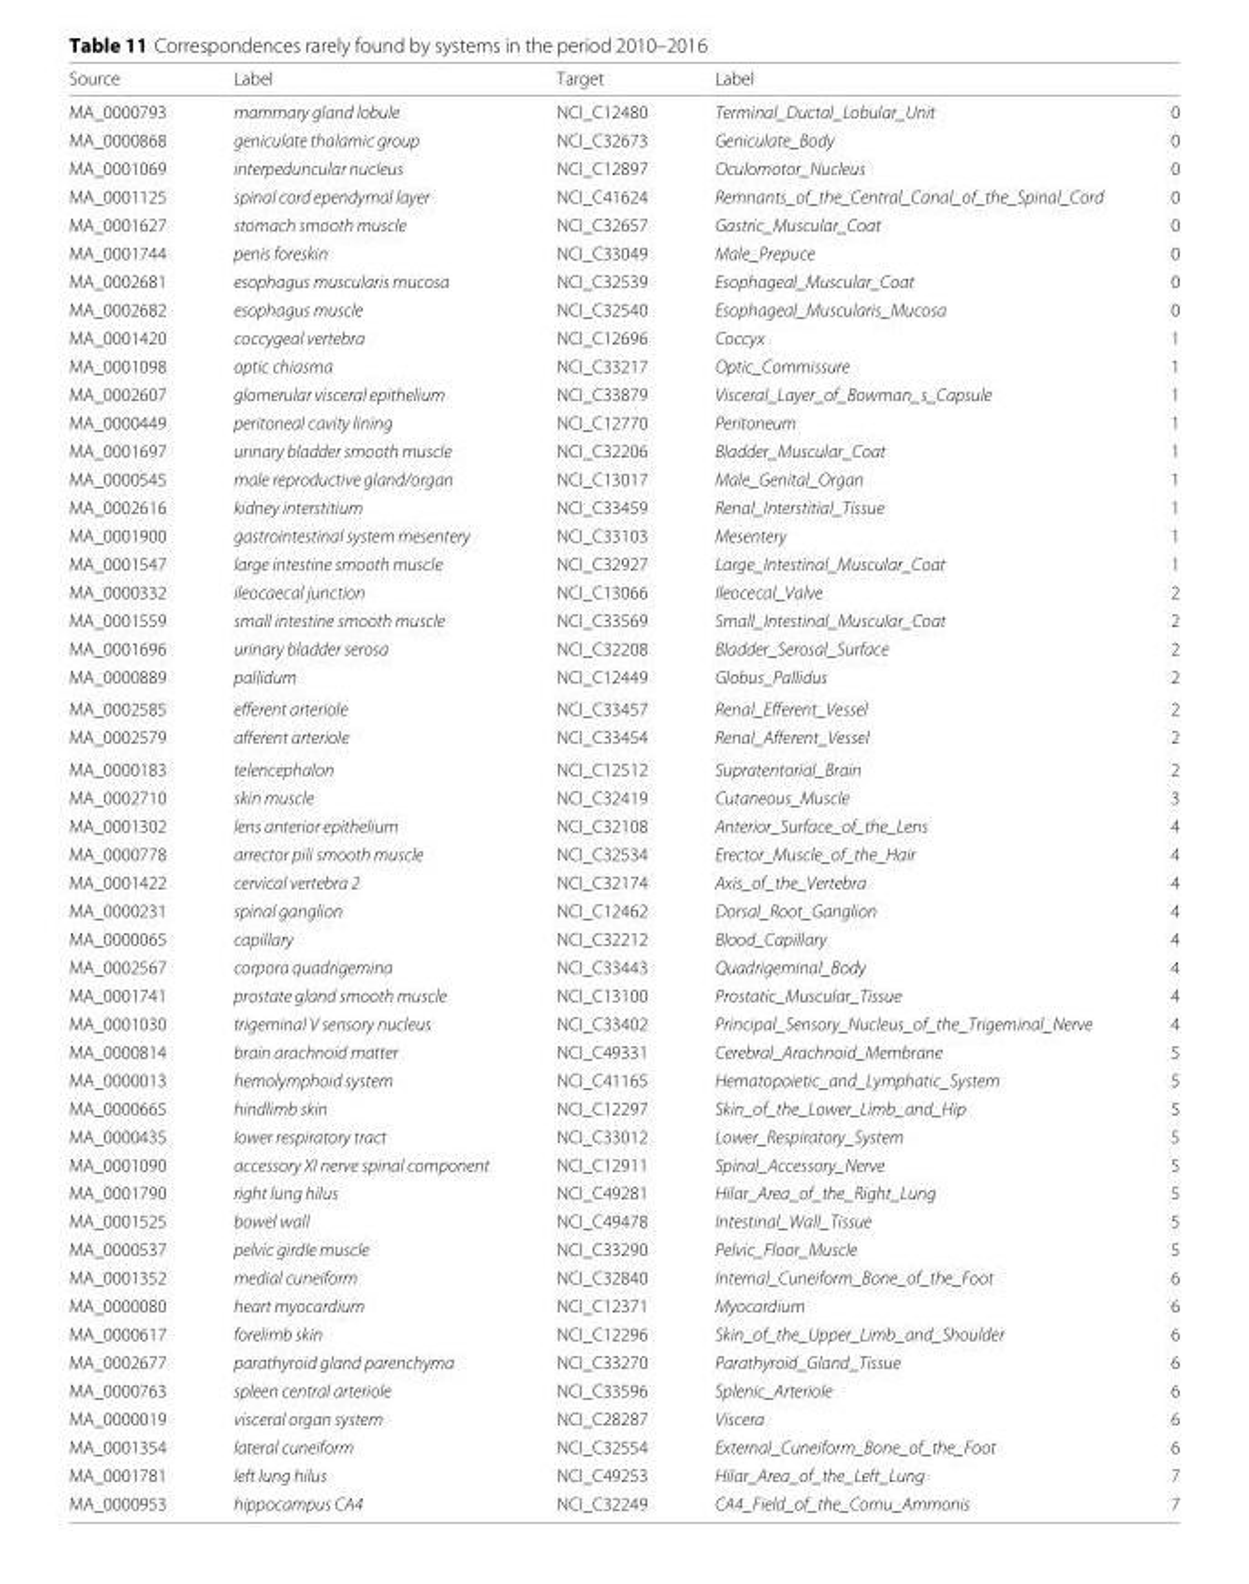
<table><thead><tr><td>Source</td><td>Label</td><td>Target</td><td>Label</td><td></td></tr></thead><tbody><tr><td>MA_0000793</td><td>mammary gland lobule</td><td>NCI_C12480</td><td>Terminal_Ductal_Lobular_Unit</td><td>0</td></tr><tr><td>MA_0000868</td><td>geniculate thalamic group</td><td>NCI_C32673</td><td>Geniculate_Body</td><td>0</td></tr><tr><td>MA_0001069</td><td>interpeduncular nucleus</td><td>NCI_C12897</td><td>Oculomotor_Nucleus</td><td>0</td></tr><tr><td>MA_0001125</td><td>spinal cord ependymal layer</td><td>NCI_C41624</td><td>Remnants_of_the_Central_Canal_of_the_Spinal_Cord</td><td>0</td></tr><tr><td>MA_0001627</td><td>stomach smooth muscle</td><td>NCI_C32657</td><td>Gastric_Muscular_Coat</td><td>0</td></tr><tr><td>MA_0001744</td><td>penis foreskin</td><td>NCI_C33049</td><td>Male_Prepuce</td><td>0</td></tr><tr><td>MA_0002681</td><td>esophagus muscularis mucosa</td><td>NCI_C32539</td><td>Esophageal_Muscular_Coat</td><td>0</td></tr><tr><td>MA_0002682</td><td>esophagus muscle</td><td>NCI_C32540</td><td>Esophageal_Muscularis_Mucosa</td><td>0</td></tr><tr><td>MA_0001420</td><td>coccygeal vertebra</td><td>NCI_C12696</td><td>Coccyx</td><td>1</td></tr><tr><td>MA_0001098</td><td>optic chiasma</td><td>NCI_C33217</td><td>Optic_Commissure</td><td>1</td></tr><tr><td>MA_0002607</td><td>glomerular visceral epithelium</td><td>NCI_C33879</td><td>Visceral_Layer_of_Bowman_s_Capsule</td><td>1</td></tr><tr><td>MA_0000449</td><td>peritoneal cavity lining</td><td>NCI_C12770</td><td>Peritoneum</td><td>1</td></tr><tr><td>MA_0001697</td><td>urinary bladder smooth muscle</td><td>NCI_C32206</td><td>Bladder_Muscular_Coat</td><td>1</td></tr><tr><td>MA_0000545</td><td>male reproductive gland/organ</td><td>NCI_C13017</td><td>Male_Genital_Organ</td><td>1</td></tr><tr><td>MA_0002616</td><td>kidney interstitium</td><td>NCI_C33459</td><td>Renal_Interstitial_Tissue</td><td>1</td></tr><tr><td>MA_0001900</td><td>gastrointestinal system mesentery</td><td>NCI_C33103</td><td>Mesentery</td><td>1</td></tr><tr><td>MA_0001547</td><td>large intestine smooth muscle</td><td>NCI_C32927</td><td>Large_Intestinal_Muscular_Coat</td><td>1</td></tr><tr><td>MA_0000332</td><td>ileocaecal junction</td><td>NCI_C13066</td><td>Ileocecal_Valve</td><td>2</td></tr><tr><td>MA_0001559</td><td>small intestine smooth muscle</td><td>NCI_C33569</td><td>Small_Intestinal_Muscular_Coat</td><td>2</td></tr><tr><td>MA_0001696</td><td>urinary bladder serosa</td><td>NCI_C32208</td><td>Bladder_Serosal_Surface</td><td>2</td></tr><tr><td>MA_0000889</td><td>pallidum</td><td>NCI_C12449</td><td>Globus_Pallidus</td><td>2</td></tr><tr><td>MA_0002585</td><td>efferent arteriole</td><td>NCI_C33457</td><td>Renal_Efferent_Vessel</td><td>2</td></tr><tr><td>MA_0002579</td><td>afferent arteriole</td><td>NCI_C33454</td><td>Renal_Afferent_Vessel</td><td>2</td></tr><tr><td>MA_0000183</td><td>telencephalon</td><td>NCI_C12512</td><td>Supratentorial_Brain</td><td>2</td></tr><tr><td>MA_0002710</td><td>skin muscle</td><td>NCI_C32419</td><td>Cutaneous_Muscle</td><td>3</td></tr><tr><td>MA_0001302</td><td>lens anterior epithelium</td><td>NCI_C32108</td><td>Anterior_Surface_of_the_Lens</td><td>4</td></tr><tr><td>MA_0000778</td><td>arrector pili smooth muscle</td><td>NCI_C32534</td><td>Erector_Muscle_of_the_Hair</td><td>4</td></tr><tr><td>MA_0001422</td><td>cervical vertebra 2</td><td>NCI_C32174</td><td>Axis_of_the_Vertebra</td><td>4</td></tr><tr><td>MA_0000231</td><td>spinal ganglion</td><td>NCI_C12462</td><td>Dorsal_Root_Ganglion</td><td>4</td></tr><tr><td>MA_0000065</td><td>capillary</td><td>NCI_C32212</td><td>Blood_Capillary</td><td>4</td></tr><tr><td>MA_0002567</td><td>corpora quadrigemina</td><td>NCI_C33443</td><td>Quadrigeminal_Body</td><td>4</td></tr><tr><td>MA_0001741</td><td>prostate gland smooth muscle</td><td>NCI_C13100</td><td>Prostatic_Muscular_Tissue</td><td>4</td></tr><tr><td>MA_0001030</td><td>trigeminal V sensory nucleus</td><td>NCI_C33402</td><td>Principal_Sensory_Nucleus_of_the_Trigeminal_Nerve</td><td>4</td></tr><tr><td>MA_0000814</td><td>brain arachnoid matter</td><td>NCI_C49331</td><td>Cerebral_Arachnoid_Membrane</td><td>5</td></tr><tr><td>MA_0000013</td><td>hemolymphoid system</td><td>NCI_C41165</td><td>Hematopoietic_and_Lymphatic_System</td><td>5</td></tr><tr><td>MA_0000665</td><td>hindlimb skin</td><td>NCI_C12297</td><td>Skin_of_the_Lower_Limb_and_Hip</td><td>5</td></tr><tr><td>MA_0000435</td><td>lower respiratory tract</td><td>NCI_C33012</td><td>Lower_Respiratory_System</td><td>5</td></tr><tr><td>MA_0001090</td><td>accessory XI nerve spinal component</td><td>NCI_C12911</td><td>Spinal_Accessory_Nerve</td><td>5</td></tr><tr><td>MA_0001790</td><td>right lung hilus</td><td>NCI_C49281</td><td>Hilar_Area_of_the_Right_Lung</td><td>5</td></tr><tr><td>MA_0001525</td><td>bowel wall</td><td>NCI_C49478</td><td>Intestinal_Wall_Tissue</td><td>5</td></tr><tr><td>MA_0000537</td><td>pelvic girdle muscle</td><td>NCI_C33290</td><td>Pelvic_Floor_Muscle</td><td>5</td></tr><tr><td>MA_0001352</td><td>medial cuneiform</td><td>NCI_C32840</td><td>Internal_Cuneiform_Bone_of_the_Foot</td><td>6</td></tr><tr><td>MA_0000080</td><td>heart myocardium</td><td>NCI_C12371</td><td>Myocardium</td><td>6</td></tr><tr><td>MA_0000617</td><td>forelimb skin</td><td>NCI_C12296</td><td>Skin_of_the_Upper_Limb_and_Shoulder</td><td>6</td></tr><tr><td>MA_0002677</td><td>parathyroid gland parenchyma</td><td>NCI_C33270</td><td>Parathyroid_Gland_Tissue</td><td>6</td></tr><tr><td>MA_0000763</td><td>spleen central arteriole</td><td>NCI_C33596</td><td>Splenic_Arteriole</td><td>6</td></tr><tr><td>MA_0000019</td><td>visceral organ system</td><td>NCI_C28287</td><td>Viscera</td><td>6</td></tr><tr><td>MA_0001354</td><td>lateral cuneiform</td><td>NCI_C32554</td><td>External_Cuneiform_Bone_of_the_Foot</td><td>6</td></tr><tr><td>MA_0001781</td><td>left lung hilus</td><td>NCI_C49253</td><td>Hilar_Area_of_the_Left_Lung</td><td>7</td></tr><tr><td>MA_0000953</td><td>hippocampus CA4</td><td>NCI_C32249</td><td>CA4_Field_of_the_Cornu_Ammonis</td><td>7</td></tr></tbody></table>